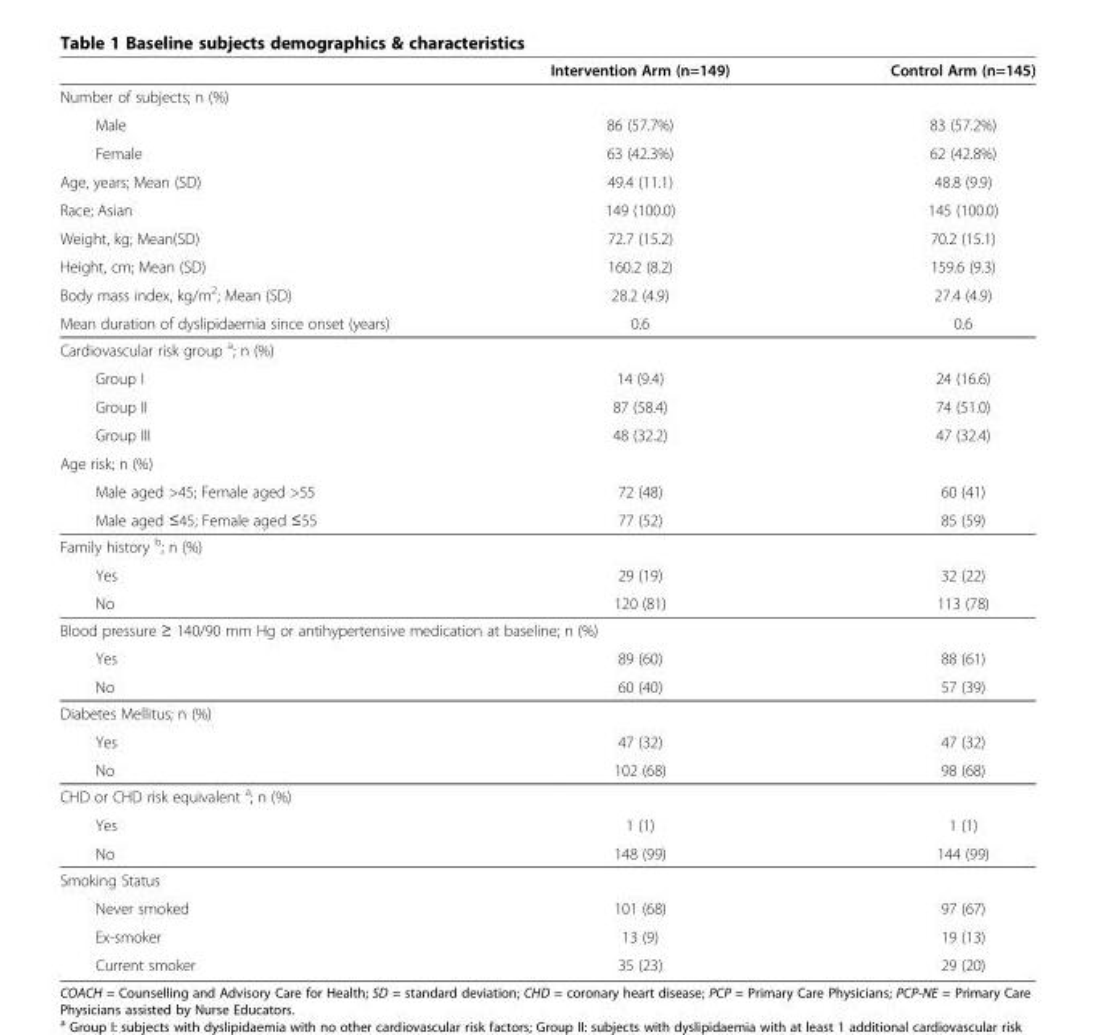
<table><thead><tr><td></td><td>Intervention Arm (n=149)</td><td>Control Arm (n=145)</td></tr></thead><tbody><tr><td colspan="3">Number of subjects; n (%)</td></tr><tr><td>Male</td><td>86 (57.7%)</td><td>83 (57.2%)</td></tr><tr><td>Female</td><td>63 (42.3%)</td><td>62 (42.8%)</td></tr><tr><td>Age, years; Mean (SD)</td><td>49.4 (11.1)</td><td>48.8 (9.9)</td></tr><tr><td>Race; Asian</td><td>149 (100.0)</td><td>145 (100.0)</td></tr><tr><td>Weight, kg; Mean(SD)</td><td>72.7 (15.2)</td><td>70.2 (15.1)</td></tr><tr><td>Height, cm; Mean (SD)</td><td>160.2 (8.2)</td><td>159.6 (9.3)</td></tr><tr><td>Body mass index, kg/m<sup>2</sup>; Mean (SD)</td><td>28.2 (4.9)</td><td>27.4 (4.9)</td></tr><tr><td>Mean duration of dyslipidaemia since onset (years)</td><td>0.6</td><td>0.6</td></tr><tr><td colspan="3">Cardiovascular risk group <sup>a</sup>; n (%)</td></tr><tr><td>Group I</td><td>14 (9.4)</td><td>24 (16.6)</td></tr><tr><td>Group II</td><td>87 (58.4)</td><td>74 (51.0)</td></tr><tr><td>Group III</td><td>48 (32.2)</td><td>47 (32.4)</td></tr><tr><td colspan="3">Age risk; n (%)</td></tr><tr><td>Male aged &gt;45; Female aged &gt;55</td><td>72 (48)</td><td>60 (41)</td></tr><tr><td>Male aged ≤45; Female aged ≤55</td><td>77 (52)</td><td>85 (59)</td></tr><tr><td colspan="3">Family history <sup>b</sup>; n (%)</td></tr><tr><td>Yes</td><td>29 (19)</td><td>32 (22)</td></tr><tr><td>No</td><td>120 (81)</td><td>113 (78)</td></tr><tr><td colspan="3">Blood pressure ≥ 140/90 mm Hg or antihypertensive medication at baseline; n (%)</td></tr><tr><td>Yes</td><td>89 (60)</td><td>88 (61)</td></tr><tr><td>No</td><td>60 (40)</td><td>57 (39)</td></tr><tr><td colspan="3">Diabetes Mellitus; n (%)</td></tr><tr><td>Yes</td><td>47 (32)</td><td>47 (32)</td></tr><tr><td>No</td><td>102 (68)</td><td>98 (68)</td></tr><tr><td colspan="3">CHD or CHD risk equivalent <sup>a</sup>; n (%)</td></tr><tr><td>Yes</td><td>1 (1)</td><td>1 (1)</td></tr><tr><td>No</td><td>148 (99)</td><td>144 (99)</td></tr><tr><td colspan="3">Smoking Status</td></tr><tr><td>Never smoked</td><td>101 (68)</td><td>97 (67)</td></tr><tr><td>Ex-smoker</td><td>13 (9)</td><td>19 (13)</td></tr><tr><td>Current smoker</td><td>35 (23)</td><td>29 (20)</td></tr></tbody></table>